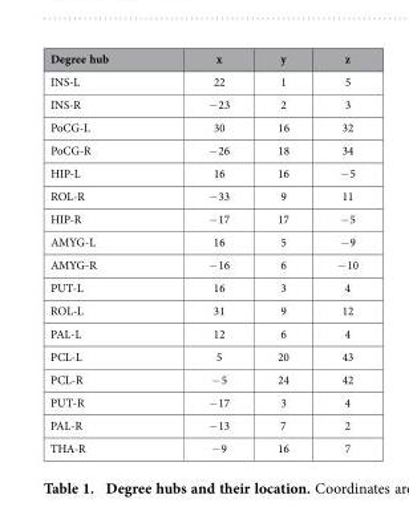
<table><thead><tr><td>Degree hub</td><td>x</td><td>y</td><td>z</td></tr></thead><tbody><tr><td>INS-L</td><td>22</td><td>1</td><td>5</td></tr><tr><td>INS-R</td><td>− 23</td><td>2</td><td>3</td></tr><tr><td>PoCG-L</td><td>30</td><td>16</td><td>32</td></tr><tr><td>PoCG-R</td><td>− 26</td><td>18</td><td>34</td></tr><tr><td>HIP-L</td><td>16</td><td>16</td><td>− 5</td></tr><tr><td>ROL-R</td><td>− 33</td><td>9</td><td>11</td></tr><tr><td>HIP-R</td><td>− 17</td><td>17</td><td>− 5</td></tr><tr><td>AMYG-L</td><td>16</td><td>5</td><td>− 9</td></tr><tr><td>AMYG-R</td><td>− 16</td><td>6</td><td>− 10</td></tr><tr><td>PUT-L</td><td>16</td><td>3</td><td>4</td></tr><tr><td>ROL-L</td><td>31</td><td>9</td><td>12</td></tr><tr><td>PAL-L</td><td>12</td><td>6</td><td>4</td></tr><tr><td>PCL-L</td><td>5</td><td>20</td><td>43</td></tr><tr><td>PCL-R</td><td>− 5</td><td>24</td><td>42</td></tr><tr><td>PUT-R</td><td>− 17</td><td>3</td><td>4</td></tr><tr><td>PAL-R</td><td>− 13</td><td>7</td><td>2</td></tr><tr><td>THA-R</td><td>− 9</td><td>16</td><td>7</td></tr></tbody></table>